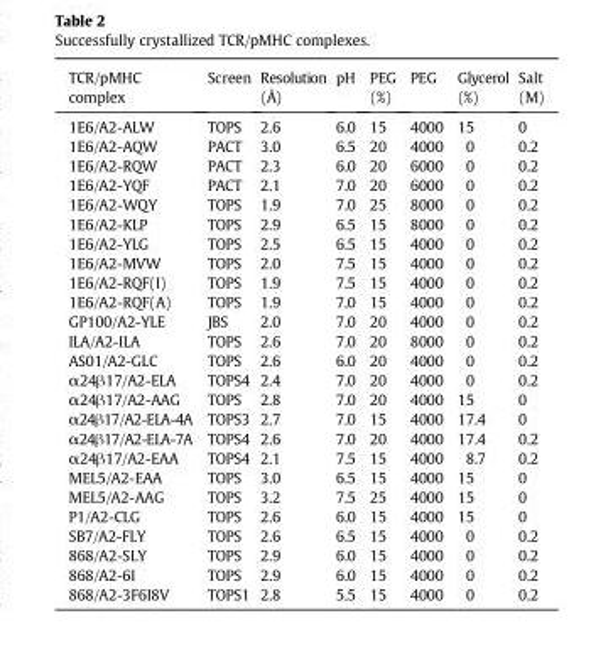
<table><thead><tr><td>TCR/pMHC complex</td><td>Screen</td><td>Resolution (Å)</td><td>pH</td><td>PEG (%)</td><td>PEG</td><td>Glycerol (%)</td><td>Salt (M)</td></tr></thead><tbody><tr><td>1E6/A2-ALW</td><td>TOPS</td><td>2.6</td><td>6.0</td><td>15</td><td>4000</td><td>15</td><td>0</td></tr><tr><td>1E6/A2-AQW</td><td>PACT</td><td>3.0</td><td>6.5</td><td>20</td><td>4000</td><td>0</td><td>0.2</td></tr><tr><td>1E6/A2-RQW</td><td>PACT</td><td>2.3</td><td>6.0</td><td>20</td><td>6000</td><td>0</td><td>0.2</td></tr><tr><td>1E6/A2-YQF</td><td>PACT</td><td>2.1</td><td>7.0</td><td>20</td><td>6000</td><td>0</td><td>0.2</td></tr><tr><td>1E6/A2-WQY</td><td>TOPS</td><td>1.9</td><td>7.0</td><td>25</td><td>8000</td><td>0</td><td>0.2</td></tr><tr><td>1E6/A2-KLP</td><td>TOPS</td><td>2.9</td><td>6.5</td><td>15</td><td>8000</td><td>0</td><td>0.2</td></tr><tr><td>1E6/A2-YLG</td><td>TOPS</td><td>2.5</td><td>6.5</td><td>15</td><td>4000</td><td>0</td><td>0.2</td></tr><tr><td>1E6/A2-MVW</td><td>TOPS</td><td>2.0</td><td>7.5</td><td>15</td><td>4000</td><td>0</td><td>0.2</td></tr><tr><td>1E6/A2-RQF(I)</td><td>TOPS</td><td>1.9</td><td>7.5</td><td>15</td><td>4000</td><td>0</td><td>0.2</td></tr><tr><td>1E6/A2-RQF(A)</td><td>TOPS</td><td>1.9</td><td>7.0</td><td>15</td><td>4000</td><td>0</td><td>0.2</td></tr><tr><td>GP100/A2-YLE</td><td>JBS</td><td>2.0</td><td>7.0</td><td>20</td><td>4000</td><td>0</td><td>0.2</td></tr><tr><td>ILA/A2-ILA</td><td>TOPS</td><td>2.6</td><td>7.0</td><td>20</td><td>8000</td><td>0</td><td>0.2</td></tr><tr><td>AS01/A2-GLC</td><td>TOPS</td><td>2.6</td><td>6.0</td><td>20</td><td>4000</td><td>0</td><td>0.2</td></tr><tr><td>α24β17/A2-ELA</td><td>TOPS4</td><td>2.4</td><td>7.0</td><td>20</td><td>4000</td><td>0</td><td>0.2</td></tr><tr><td>α24β17/A2-AAG</td><td>TOPS</td><td>2.8</td><td>7.0</td><td>20</td><td>4000</td><td>15</td><td>0</td></tr><tr><td>α24β17/A2-ELA-4A</td><td>TOPS3</td><td>2.7</td><td>7.0</td><td>15</td><td>4000</td><td>17.4</td><td>0</td></tr><tr><td>α24β17/A2-ELA-7A</td><td>TOPS4</td><td>2.6</td><td>7.0</td><td>20</td><td>4000</td><td>17.4</td><td>0.2</td></tr><tr><td>α24β17/A2-EAA</td><td>TOPS4</td><td>2.1</td><td>7.5</td><td>15</td><td>4000</td><td>8.7</td><td>0.2</td></tr><tr><td>MEL5/A2-EAA</td><td>TOPS</td><td>3.0</td><td>6.5</td><td>15</td><td>4000</td><td>15</td><td>0</td></tr><tr><td>MEL5/A2-AAG</td><td>TOPS</td><td>3.2</td><td>7.5</td><td>25</td><td>4000</td><td>15</td><td>0</td></tr><tr><td>P1/A2-CLG</td><td>TOPS</td><td>2.6</td><td>6.0</td><td>15</td><td>4000</td><td>15</td><td>0</td></tr><tr><td>SB7/A2-FLY</td><td>TOPS</td><td>2.6</td><td>6.5</td><td>15</td><td>4000</td><td>0</td><td>0.2</td></tr><tr><td>868/A2-SLY</td><td>TOPS</td><td>2.9</td><td>6.0</td><td>15</td><td>4000</td><td>0</td><td>0.2</td></tr><tr><td>868/A2-6I</td><td>TOPS</td><td>2.9</td><td>6.0</td><td>15</td><td>4000</td><td>0</td><td>0.2</td></tr><tr><td>868/A2-3F6I8V</td><td>TOPS1</td><td>2.8</td><td>5.5</td><td>15</td><td>4000</td><td>0</td><td>0.2</td></tr></tbody></table>